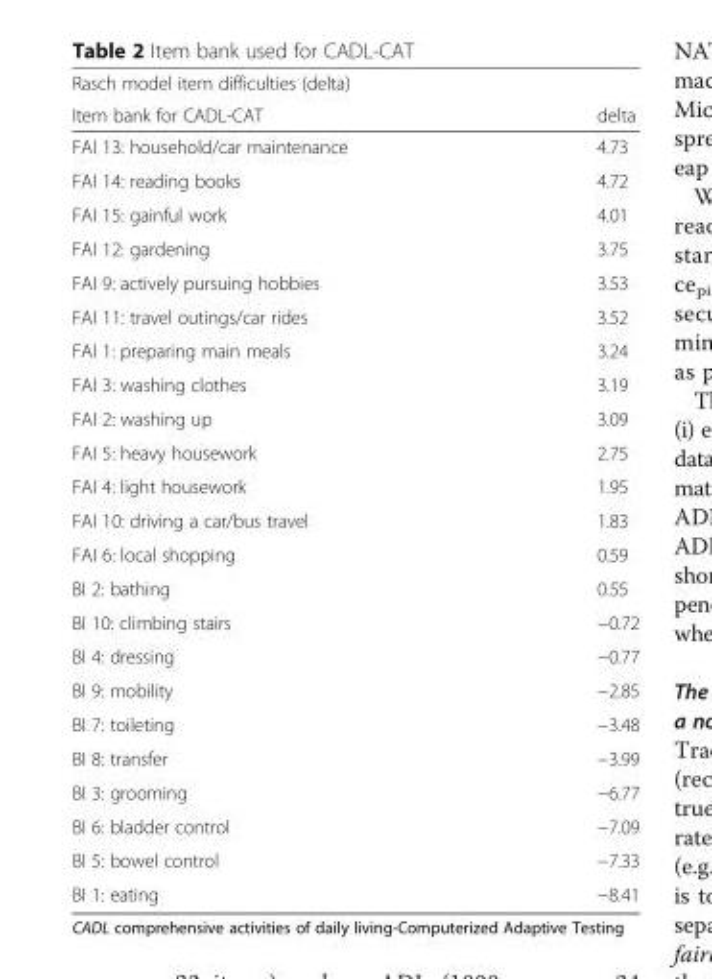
<table><thead><tr><td rowspan="2">Rasch model item difficulties (delta) Item bank for CADL-CAT</td><td rowspan="2">delta</td></tr><tr></tr></thead><tbody><tr><td>FAI 13: household/car maintenance</td><td>4.73</td></tr><tr><td>FAI 14: reading books</td><td>4.72</td></tr><tr><td>FAI 15: gainful work</td><td>4.01</td></tr><tr><td>FAI 12: gardening</td><td>3.75</td></tr><tr><td>FAI 9: actively pursuing hobbies</td><td>3.53</td></tr><tr><td>FAI 11: travel outings/car rides</td><td>3.52</td></tr><tr><td>FAI 1: preparing main meals</td><td>3.24</td></tr><tr><td>FAI 3: washing clothes</td><td>3.19</td></tr><tr><td>FAI 2: washing up</td><td>3.09</td></tr><tr><td>FAI 5: heavy housework</td><td>2.75</td></tr><tr><td>FAI 4: light housework</td><td>1.95</td></tr><tr><td>FAI 10: driving a car/bus travel</td><td>1.83</td></tr><tr><td>FAI 6: local shopping</td><td>0.59</td></tr><tr><td>BI 2: bathing</td><td>0.55</td></tr><tr><td>BI 10: climbing stairs</td><td>−0.72</td></tr><tr><td>BI 4: dressing</td><td>−0.77</td></tr><tr><td>BI 9: mobility</td><td>−2.85</td></tr><tr><td>BI 7: toileting</td><td>−3.48</td></tr><tr><td>BI 8: transfer</td><td>−3.99</td></tr><tr><td>BI 3: grooming</td><td>−6.77</td></tr><tr><td>BI 6: bladder control</td><td>−7.09</td></tr><tr><td>BI 5: bowel control</td><td>−7.33</td></tr><tr><td>BI 1: eating</td><td>−8.41</td></tr></tbody></table>